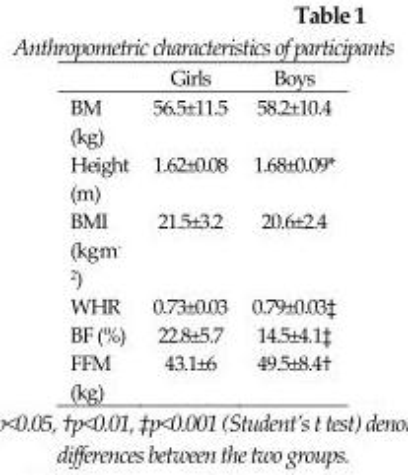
<table><thead><tr><td></td><td>Girls</td><td>Boys</td></tr></thead><tbody><tr><td>BM (kg)</td><td>56.5±11.5</td><td>58.2±10.4</td></tr><tr><td>Height (m)</td><td>1.62±0.08</td><td>1.68±0.09*</td></tr><tr><td>BMI (kg.m- 2)</td><td>21.5±3.2</td><td>20.6±2.4</td></tr><tr><td>WHR</td><td>0.73±0.03</td><td>0.79±0.03<sup>‡</sup></td></tr><tr><td>BF (%)</td><td>22.8±5.7</td><td>14.5±4.1<sup>‡</sup></td></tr><tr><td>FFM (kg)</td><td>43.1±6</td><td>49.5±8.4<sup>†</sup></td></tr></tbody></table>